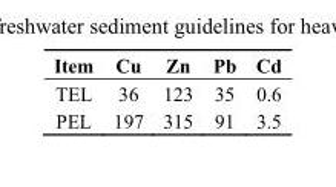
<table><thead><tr><td>Item</td><td>Cu</td><td>Zn</td><td>Pb</td><td>Cd</td></tr></thead><tbody><tr><td>TEL</td><td>36</td><td>123</td><td>35</td><td>0.6</td></tr><tr><td>PEL</td><td>197</td><td>315</td><td>91</td><td>3.5</td></tr></tbody></table>